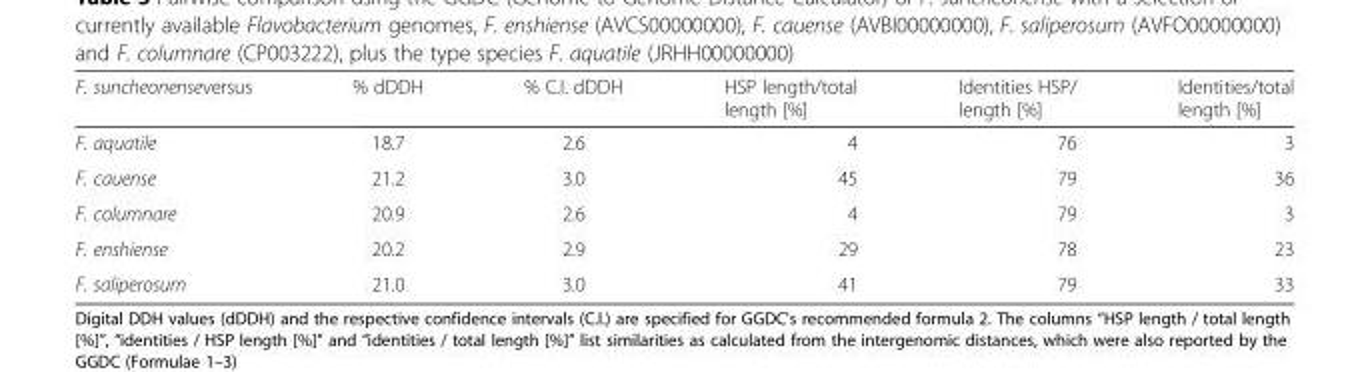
<table><thead><tr><td>F. suncheonenseversus</td><td>% dDDH</td><td>% C.I. dDDH</td><td>HSP length/total length [%]</td><td>Identities HSP/ length [%]</td><td>Identities/total length [%]</td></tr></thead><tbody><tr><td>F. aquatile</td><td>18.7</td><td>2.6</td><td>4</td><td>76</td><td>3</td></tr><tr><td>F. cauense</td><td>21.2</td><td>3.0</td><td>45</td><td>79</td><td>36</td></tr><tr><td>F. columnare</td><td>20.9</td><td>2.6</td><td>4</td><td>79</td><td>3</td></tr><tr><td>F. enshiense</td><td>20.2</td><td>2.9</td><td>29</td><td>78</td><td>23</td></tr><tr><td>F. saliperosum</td><td>21.0</td><td>3.0</td><td>41</td><td>79</td><td>33</td></tr></tbody></table>